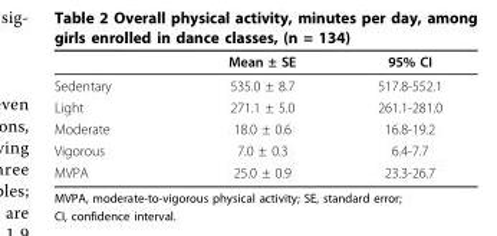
<table><thead><tr><td></td><td>Mean ± SE</td><td>95% CI</td></tr></thead><tbody><tr><td>Sedentary</td><td>535.0 ± 8.7</td><td>517.8-552.1</td></tr><tr><td>Light</td><td>271.1 ± 5.0</td><td>261.1-281.0</td></tr><tr><td>Moderate</td><td>18.0 ± 0.6</td><td>16.8-19.2</td></tr><tr><td>Vigorous</td><td>7.0 ± 0.3</td><td>6.4-7.7</td></tr><tr><td>MVPA</td><td>25.0 ± 0.9</td><td>23.3-26.7</td></tr></tbody></table>